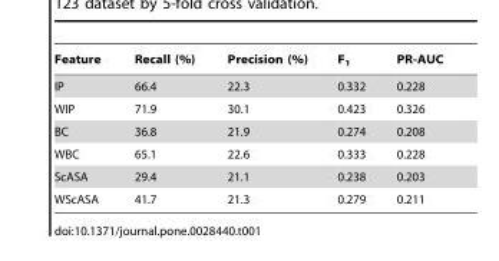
<table><thead><tr><td>Feature</td><td>Recall (%)</td><td>Precision (%)</td><td>F<sub>1</sub></td><td>PR-AUC</td></tr></thead><tbody><tr><td>IP</td><td>66.4</td><td>22.3</td><td>0.332</td><td>0.228</td></tr><tr><td>WIP</td><td>71.9</td><td>30.1</td><td>0.423</td><td>0.326</td></tr><tr><td>BC</td><td>36.8</td><td>21.9</td><td>0.274</td><td>0.208</td></tr><tr><td>WBC</td><td>65.1</td><td>22.6</td><td>0.333</td><td>0.228</td></tr><tr><td>ScASA</td><td>29.4</td><td>21.1</td><td>0.238</td><td>0.203</td></tr><tr><td>WScASA</td><td>41.7</td><td>21.3</td><td>0.279</td><td>0.211</td></tr></tbody></table>